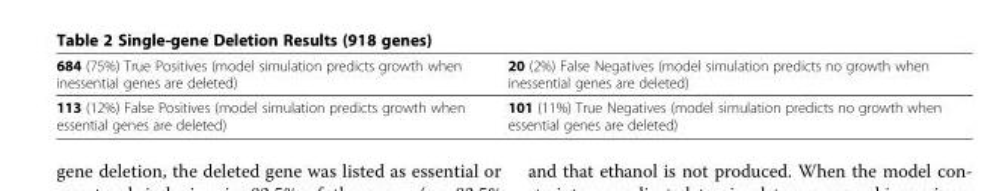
<table><tbody><tr><td>684 (75%) True Positives (model simulation predicts growth when inessential genes are deleted)</td><td>20 (2%) False Negatives (model simulation predicts no growth when inessential genes are deleted)</td></tr><tr><td>113 (12%) False Positives (model simulation predicts growth when essential genes are deleted)</td><td>101 (11%) True Negatives (model simulation predicts no growth when essential genes are deleted)</td></tr></tbody></table>